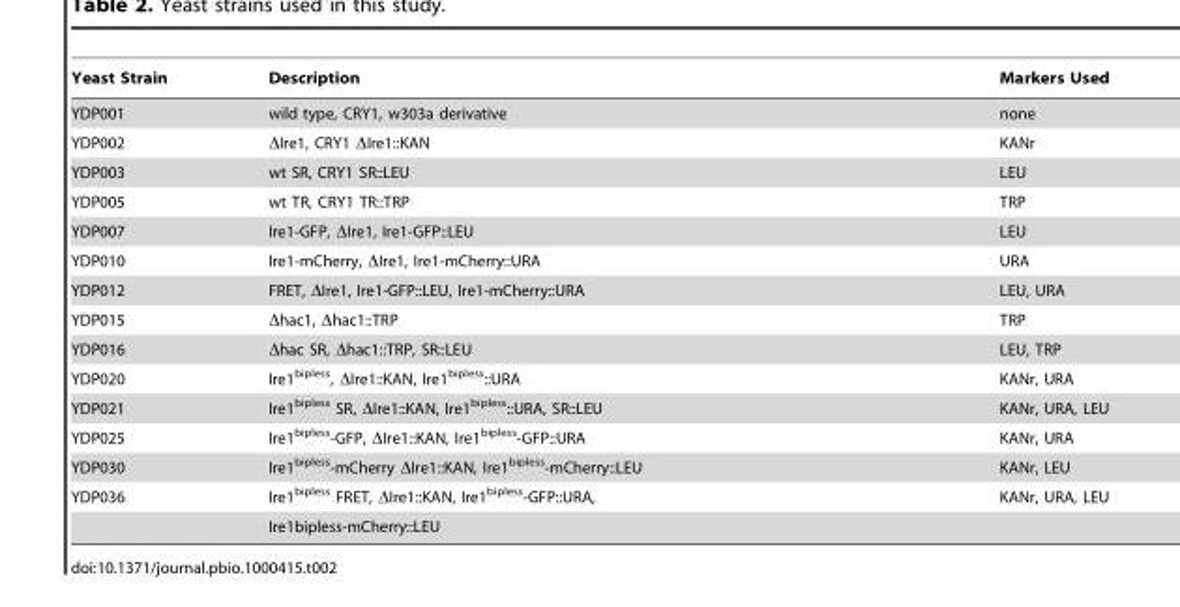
<table><thead><tr><td>Yeast Strain</td><td>Description</td><td>Markers Used</td></tr></thead><tbody><tr><td>YDP001</td><td>wild type, CRY1, w303a derivative</td><td>none</td></tr><tr><td>YDP002</td><td>ΔIre1, CRY1 ΔIre1::KAN</td><td>KANr</td></tr><tr><td>YDP003</td><td>wt SR, CRY1 SR::LEU</td><td>LEU</td></tr><tr><td>YDP005</td><td>wt TR, CRY1 TR::TRP</td><td>TRP</td></tr><tr><td>YDP007</td><td>Ire1-GFP, ΔIre1, Ire1-GFP::LEU</td><td>LEU</td></tr><tr><td>YDP010</td><td>Ire1-mCherry, ΔIre1, Ire1-mCherry::URA</td><td>URA</td></tr><tr><td>YDP012</td><td>FRET, ΔIre1, Ire1-GFP::LEU, Ire1-mCherry::URA</td><td>LEU, URA</td></tr><tr><td>YDP015</td><td>Δhac1, Δhac1::TRP</td><td>TRP</td></tr><tr><td>YDP016</td><td>Δhac SR, Δhac1::TRP, SR::LEU</td><td>LEU, TRP</td></tr><tr><td>YDP020</td><td>Ire1<sup>bipless</sup>, ΔIre1::KAN, Ire1<sup>bipless</sup>::URA</td><td>KANr, URA</td></tr><tr><td>YDP021</td><td>Ire1<sup>bipless</sup> SR, ΔIre1::KAN, Ire1<sup>bipless</sup>::URA, SR::LEU</td><td>KANr, URA, LEU</td></tr><tr><td>YDP025</td><td>Ire1<sup>bipless</sup>-GFP, ΔIre1::KAN, Ire1<sup>bipless</sup>-GFP::URA</td><td>KANr, URA</td></tr><tr><td>YDP030</td><td>Ire1<sup>bipless</sup>-mCherry ΔIre1::KAN, Ire1<sup>bipless</sup>-mCherry::LEU</td><td>KANr, LEU</td></tr><tr><td rowspan="2">YDP036</td><td>Ire1<sup>bipless</sup> FRET, ΔIre1::KAN, Ire1<sup>bipless</sup>-GFP::URA,</td><td>KANr, URA, LEU</td></tr><tr><td>Ire1bipless-mCherry::LEU</td><td></td></tr></tbody></table>